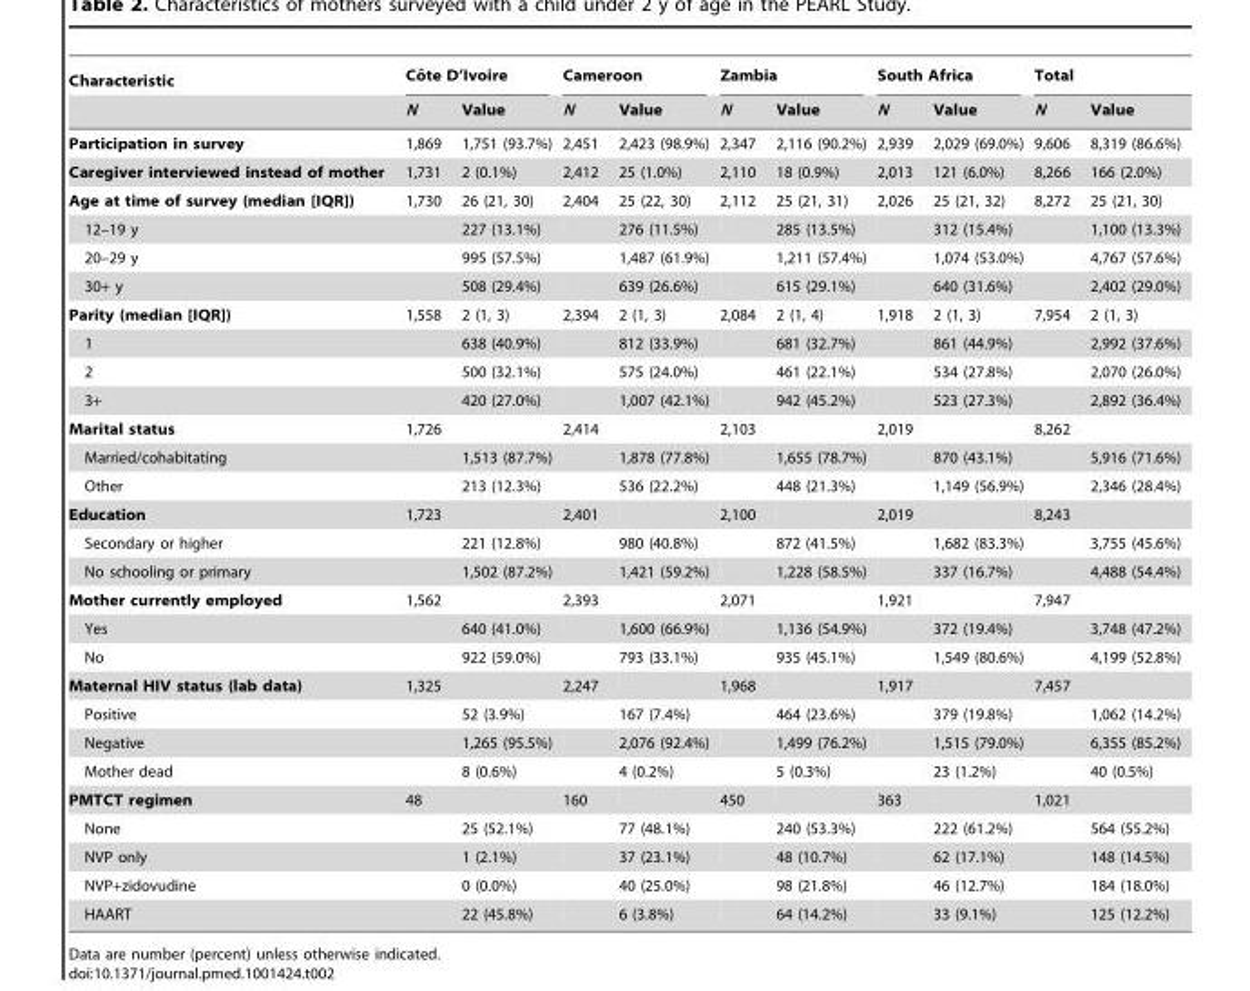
<table><thead><tr><td rowspan="2">Characteristic</td><td colspan="2">Coˆ te D’Ivoire</td><td colspan="2">Cameroon</td><td colspan="2">Zambia</td><td colspan="2">South Africa</td><td colspan="2">Total</td></tr><tr><td>N</td><td>Value</td><td>N</td><td>Value</td><td>N</td><td>Value</td><td>N</td><td>Value</td><td>N</td><td>Value</td></tr></thead><tbody><tr><td>Participation in survey</td><td>1,869</td><td>1,751 (93.7%)</td><td>2,451</td><td>2,423 (98.9%)</td><td>2,347</td><td>2,116 (90.2%)</td><td>2,939</td><td>2,029 (69.0%)</td><td>9,606</td><td>8,319 (86.6%)</td></tr><tr><td>Caregiver interviewed instead of mother</td><td>1,731</td><td>2 (0.1%)</td><td>2,412</td><td>25 (1.0%)</td><td>2,110</td><td>18 (0.9%)</td><td>2,013</td><td>121 (6.0%)</td><td>8,266</td><td>166 (2.0%)</td></tr><tr><td>Age at time of survey (median [IQR])</td><td>1,730</td><td>26 (21, 30)</td><td>2,404</td><td>25 (22, 30)</td><td>2,112</td><td>25 (21, 31)</td><td>2,026</td><td>25 (21, 32)</td><td>8,272</td><td>25 (21, 30)</td></tr><tr><td>12–19 y</td><td></td><td>227 (13.1%)</td><td></td><td>276 (11.5%)</td><td></td><td>285 (13.5%)</td><td></td><td>312 (15.4%)</td><td></td><td>1,100 (13.3%)</td></tr><tr><td>20–29 y</td><td></td><td>995 (57.5%)</td><td></td><td>1,487 (61.9%)</td><td></td><td>1,211 (57.4%)</td><td></td><td>1,074 (53.0%)</td><td></td><td>4,767 (57.6%)</td></tr><tr><td>30+ y</td><td></td><td>508 (29.4%)</td><td></td><td>639 (26.6%)</td><td></td><td>615 (29.1%)</td><td></td><td>640 (31.6%)</td><td></td><td>2,402 (29.0%)</td></tr><tr><td>Parity (median [IQR])</td><td>1,558</td><td>2 (1, 3)</td><td>2,394</td><td>2 (1, 3)</td><td>2,084</td><td>2 (1, 4)</td><td>1,918</td><td>2 (1, 3)</td><td>7,954</td><td>2 (1, 3)</td></tr><tr><td>1</td><td></td><td>638 (40.9%)</td><td></td><td>812 (33.9%)</td><td></td><td>681 (32.7%)</td><td></td><td>861 (44.9%)</td><td></td><td>2,992 (37.6%)</td></tr><tr><td>2</td><td></td><td>500 (32.1%)</td><td></td><td>575 (24.0%)</td><td></td><td>461 (22.1%)</td><td></td><td>534 (27.8%)</td><td></td><td>2,070 (26.0%)</td></tr><tr><td>3+</td><td></td><td>420 (27.0%)</td><td></td><td>1,007 (42.1%)</td><td></td><td>942 (45.2%)</td><td></td><td>523 (27.3%)</td><td></td><td>2,892 (36.4%)</td></tr><tr><td>Marital status</td><td>1,726</td><td></td><td>2,414</td><td></td><td>2,103</td><td></td><td>2,019</td><td></td><td>8,262</td><td></td></tr><tr><td>Married/cohabitating</td><td></td><td>1,513 (87.7%)</td><td></td><td>1,878 (77.8%)</td><td></td><td>1,655 (78.7%)</td><td></td><td>870 (43.1%)</td><td></td><td>5,916 (71.6%)</td></tr><tr><td>Other</td><td></td><td>213 (12.3%)</td><td></td><td>536 (22.2%)</td><td></td><td>448 (21.3%)</td><td></td><td>1,149 (56.9%)</td><td></td><td>2,346 (28.4%)</td></tr><tr><td>Education</td><td>1,723</td><td></td><td>2,401</td><td></td><td>2,100</td><td></td><td>2,019</td><td></td><td>8,243</td><td></td></tr><tr><td>Secondary or higher</td><td></td><td>221 (12.8%)</td><td></td><td>980 (40.8%)</td><td></td><td>872 (41.5%)</td><td></td><td>1,682 (83.3%)</td><td></td><td>3,755 (45.6%)</td></tr><tr><td>No schooling or primary</td><td></td><td>1,502 (87.2%)</td><td></td><td>1,421 (59.2%)</td><td></td><td>1,228 (58.5%)</td><td></td><td>337 (16.7%)</td><td></td><td>4,488 (54.4%)</td></tr><tr><td>Mother currently employed</td><td>1,562</td><td></td><td>2,393</td><td></td><td>2,071</td><td></td><td>1,921</td><td></td><td>7,947</td><td></td></tr><tr><td>Yes</td><td></td><td>640 (41.0%)</td><td></td><td>1,600 (66.9%)</td><td></td><td>1,136 (54.9%)</td><td></td><td>372 (19.4%)</td><td></td><td>3,748 (47.2%)</td></tr><tr><td>No</td><td></td><td>922 (59.0%)</td><td></td><td>793 (33.1%)</td><td></td><td>935 (45.1%)</td><td></td><td>1,549 (80.6%)</td><td></td><td>4,199 (52.8%)</td></tr><tr><td>Maternal HIV status (lab data)</td><td>1,325</td><td></td><td>2,247</td><td></td><td>1,968</td><td></td><td>1,917</td><td></td><td>7,457</td><td></td></tr><tr><td>Positive</td><td></td><td>52 (3.9%)</td><td></td><td>167 (7.4%)</td><td></td><td>464 (23.6%)</td><td></td><td>379 (19.8%)</td><td></td><td>1,062 (14.2%)</td></tr><tr><td>Negative</td><td></td><td>1,265 (95.5%)</td><td></td><td>2,076 (92.4%)</td><td></td><td>1,499 (76.2%)</td><td></td><td>1,515 (79.0%)</td><td></td><td>6,355 (85.2%)</td></tr><tr><td>Mother dead</td><td></td><td>8 (0.6%)</td><td></td><td>4 (0.2%)</td><td></td><td>5 (0.3%)</td><td></td><td>23 (1.2%)</td><td></td><td>40 (0.5%)</td></tr><tr><td>PMTCT regimen</td><td>48</td><td></td><td>160</td><td></td><td>450</td><td></td><td>363</td><td></td><td>1,021</td><td></td></tr><tr><td>None</td><td></td><td>25 (52.1%)</td><td></td><td>77 (48.1%)</td><td></td><td>240 (53.3%)</td><td></td><td>222 (61.2%)</td><td></td><td>564 (55.2%)</td></tr><tr><td>NVP only</td><td></td><td>1 (2.1%)</td><td></td><td>37 (23.1%)</td><td></td><td>48 (10.7%)</td><td></td><td>62 (17.1%)</td><td></td><td>148 (14.5%)</td></tr><tr><td>NVP+zidovudine</td><td></td><td>0 (0.0%)</td><td></td><td>40 (25.0%)</td><td></td><td>98 (21.8%)</td><td></td><td>46 (12.7%)</td><td></td><td>184 (18.0%)</td></tr><tr><td>HAART</td><td></td><td>22 (45.8%)</td><td></td><td>6 (3.8%)</td><td></td><td>64 (14.2%)</td><td></td><td>33 (9.1%)</td><td></td><td>125 (12.2%)</td></tr></tbody></table>